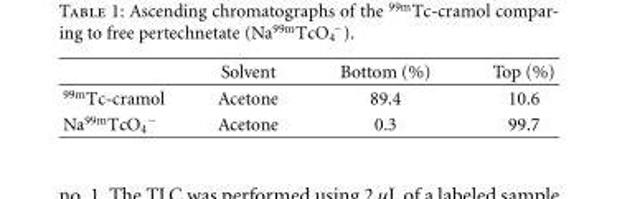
<table><thead><tr><td></td><td>Solvent</td><td>Bottom (%)</td><td>Top (%)</td></tr></thead><tbody><tr><td><sup>99m</sup>Tc-cramol</td><td>Acetone</td><td>89.4</td><td>10.6</td></tr><tr><td>Na<sup>99m</sup>TcO<sub>4</sub><sup>−</sup></td><td>Acetone</td><td>0.3</td><td>99.7</td></tr></tbody></table>